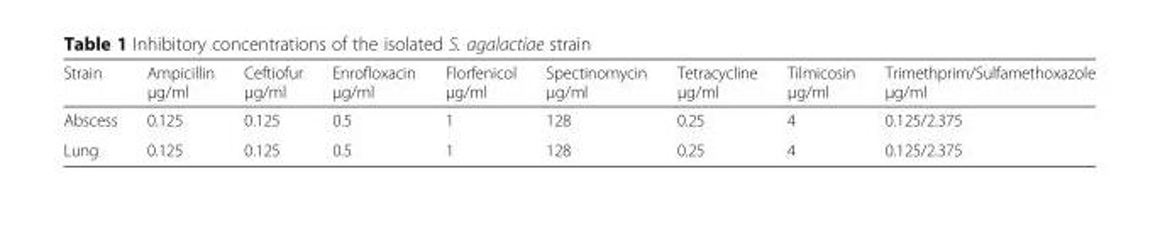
<table><thead><tr><td>Strain</td><td>Ampicillin μg/ml</td><td>Ceftiofur μg/ml</td><td>Enrofloxacin μg/ml</td><td>Florfenicol μg/ml</td><td>Spectinomycin μg/ml</td><td>Tetracycline μg/ml</td><td>Tilmicosin μg/ml</td><td>Trimethprim/Sulfamethoxazole μg/ml</td></tr></thead><tbody><tr><td>Abscess</td><td>0.125</td><td>0.125</td><td>0.5</td><td>1</td><td>128</td><td>0.25</td><td>4</td><td>0.125/2.375</td></tr><tr><td>Lung</td><td>0.125</td><td>0.125</td><td>0.5</td><td>1</td><td>128</td><td>0.25</td><td>4</td><td>0.125/2.375</td></tr></tbody></table>